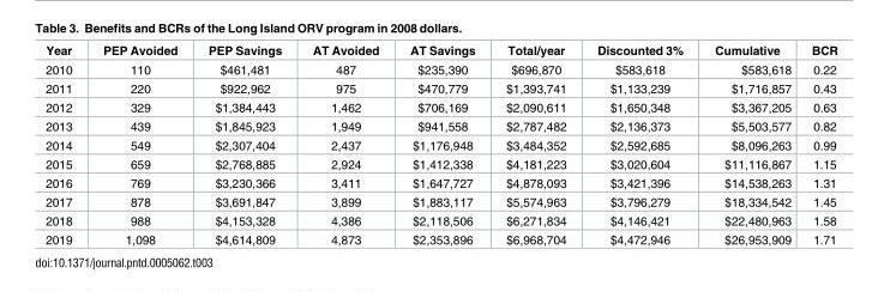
<table><thead><tr><td>Year</td><td>PEP Avoided</td><td>PEP Savings</td><td>AT Avoided</td><td>AT Savings</td><td>Total/year</td><td>Discounted 3%</td><td>Cumulative</td><td>BCR</td></tr></thead><tbody><tr><td>2010</td><td>110</td><td>$461,481</td><td>487</td><td>$235,390</td><td>$696,870</td><td>$583,618</td><td>$583,618</td><td>0.22</td></tr><tr><td>2011</td><td>220</td><td>$922,962</td><td>975</td><td>$470,779</td><td>$1,393,741</td><td>$1,133,239</td><td>$1,716,857</td><td>0.43</td></tr><tr><td>2012</td><td>329</td><td>$1,384,443</td><td>1,462</td><td>$706,169</td><td>$2,090,611</td><td>$1,650,348</td><td>$3,367,205</td><td>0.63</td></tr><tr><td>2013</td><td>439</td><td>$1,845,923</td><td>1,949</td><td>$941,558</td><td>$2,787,482</td><td>$2,136,373</td><td>$5,503,577</td><td>0.82</td></tr><tr><td>2014</td><td>549</td><td>$2,307,404</td><td>2,437</td><td>$1,176,948</td><td>$3,484,352</td><td>$2,592,685</td><td>$8,096,263</td><td>0.99</td></tr><tr><td>2015</td><td>659</td><td>$2,768,885</td><td>2,924</td><td>$1,412,338</td><td>$4,181,223</td><td>$3,020,604</td><td>$11,116,867</td><td>1.15</td></tr><tr><td>2016</td><td>769</td><td>$3,230,366</td><td>3,411</td><td>$1,647,727</td><td>$4,878,093</td><td>$3,421,396</td><td>$14,538,263</td><td>1.31</td></tr><tr><td>2017</td><td>878</td><td>$3,691,847</td><td>3,899</td><td>$1,883,117</td><td>$5,574,963</td><td>$3,796,279</td><td>$18,334,542</td><td>1.45</td></tr><tr><td>2018</td><td>988</td><td>$4,153,328</td><td>4,386</td><td>$2,118,506</td><td>$6,271,834</td><td>$4,146,421</td><td>$22,480,963</td><td>1.58</td></tr><tr><td>2019</td><td>1,098</td><td>$4,614,809</td><td>4,873</td><td>$2,353,896</td><td>$6,968,704</td><td>$4,472,946</td><td>$26,953,909</td><td>1.71</td></tr></tbody></table>